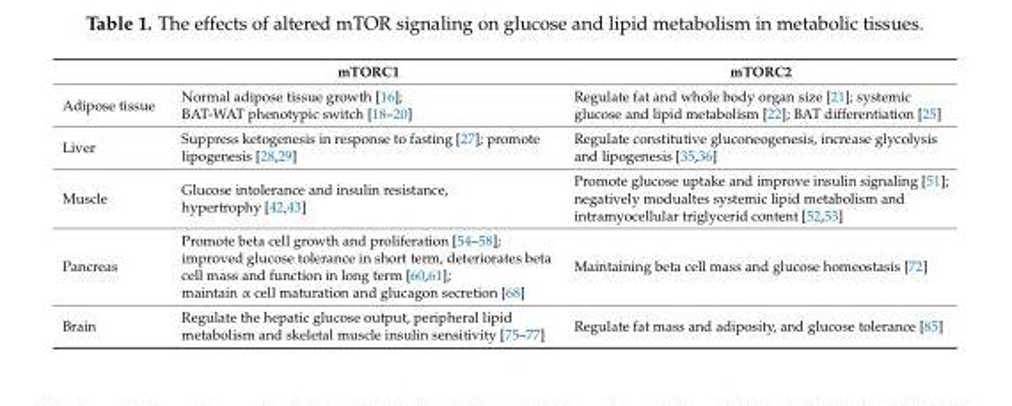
<table><thead><tr><td></td><td>mTORC1</td><td>mTORC2</td></tr></thead><tbody><tr><td>Adipose tissue</td><td>Normal adipose tissue growth [16]; BAT-WAT phenotypic switch [18–20]</td><td>Regulate fat and whole body organ size [21]; systemic glucose and lipid metabolism [22]; BAT differentiation [25]</td></tr><tr><td>Liver</td><td>Suppress ketogenesis in response to fasting [27]; promote lipogenesis [28,29]</td><td>Regulate constitutive gluconeogenesis, increase glycolysis and lipogenesis [35,36]</td></tr><tr><td>Muscle</td><td>Glucose intolerance and insulin resistance, hypertrophy [42,43]</td><td>Promote glucose uptake and improve insulin signaling [51]; negatively modualtes systemic lipid metabolism and intramyocellular triglycerid content [52,53]</td></tr><tr><td>Pancreas</td><td>Promote beta cell growth and proliferation [54–58]; improved glucose tolerance in short term, deteriorates beta cell mass and function in long term [60,61]; maintain α cell maturation and glucagon secretion [68]</td><td>Maintaining beta cell mass and glucose homeostasis [72]</td></tr><tr><td>Brain</td><td>Regulate the hepatic glucose output, peripheral lipid metabolism and skeletal muscle insulin sensitivity [75–77]</td><td>Regulate fat mass and adiposity, and glucose tolerance [85]</td></tr></tbody></table>